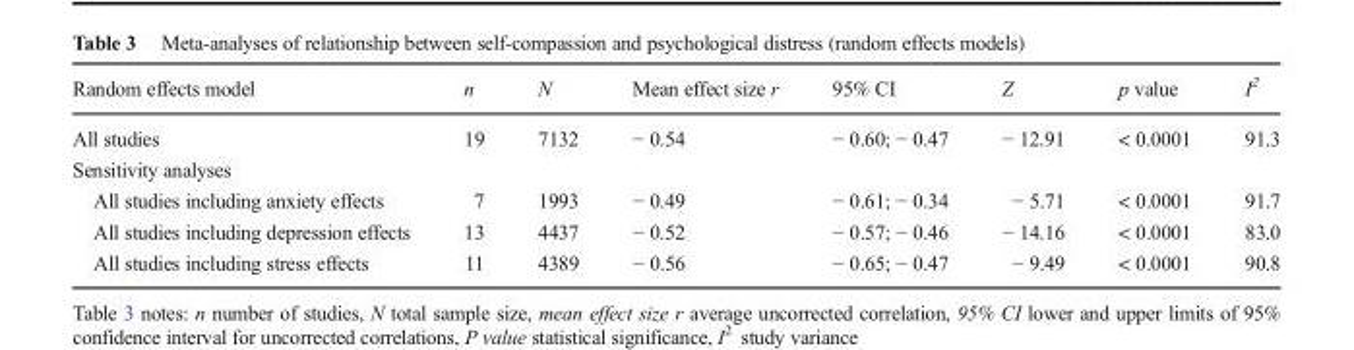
<table><thead><tr><td>Random effects model</td><td>n</td><td>N</td><td>Mean effect size r</td><td>95% CI</td><td>Z</td><td>p value</td><td>I<sup>2</sup></td></tr></thead><tbody><tr><td>All studies</td><td>19</td><td>7132</td><td>− 0.54</td><td>− 0.60; − 0.47</td><td>− 12.91</td><td>&lt; 0.0001</td><td>91.3</td></tr><tr><td colspan="8">Sensitivity analyses</td></tr><tr><td>All studies including anxiety effects</td><td>7</td><td>1993</td><td>− 0.49</td><td>− 0.61; − 0.34</td><td>− 5.71</td><td>&lt; 0.0001</td><td>91.7</td></tr><tr><td>All studies including depression effects</td><td>13</td><td>4437</td><td>− 0.52</td><td>− 0.57; − 0.46</td><td>− 14.16</td><td>&lt; 0.0001</td><td>83.0</td></tr><tr><td>All studies including stress effects</td><td>11</td><td>4389</td><td>− 0.56</td><td>− 0.65; − 0.47</td><td>− 9.49</td><td>&lt; 0.0001</td><td>90.8</td></tr></tbody></table>